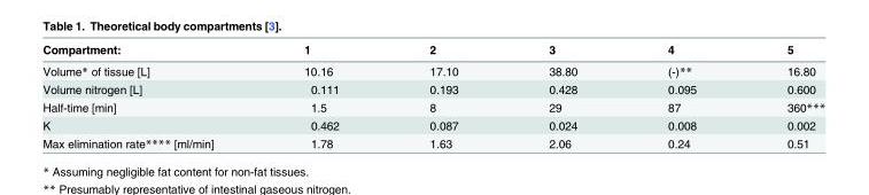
<table><thead><tr><td>Compartment:</td><td>1</td><td>2</td><td>3</td><td>4</td><td>5</td></tr></thead><tbody><tr><td>Volume* of tissue [L]</td><td>10.16</td><td>17.10</td><td>38.80</td><td>(-)**</td><td>16.80</td></tr><tr><td>Volume nitrogen [L]</td><td>0.111</td><td>0.193</td><td>0.428</td><td>0.095</td><td>0.600</td></tr><tr><td>Half-time [min]</td><td>1.5</td><td>8</td><td>29</td><td>87</td><td>360***</td></tr><tr><td>K</td><td>0.462</td><td>0.087</td><td>0.024</td><td>0.008</td><td>0.002</td></tr><tr><td>Max elimination rate**** [ml/min]</td><td>1.78</td><td>1.63</td><td>2.06</td><td>0.24</td><td>0.51</td></tr></tbody></table>